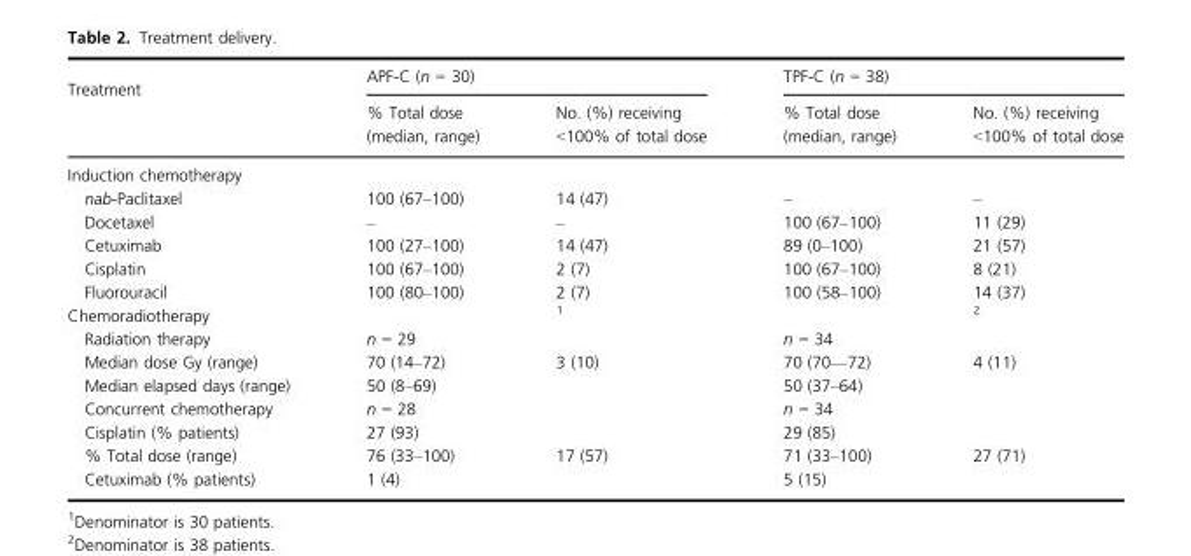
<table><thead><tr><td rowspan="2">Treatment</td><td colspan="2">APF-C (n = 30)</td><td colspan="2">TPF-C (n = 38)</td></tr><tr><td>% Total dose (median, range)</td><td>No. (%) receiving &lt;100% of total dose</td><td>% Total dose (median, range)</td><td>No. (%) receiving &lt;100% of total dose</td></tr></thead><tbody><tr><td colspan="5">Induction chemotherapy</td></tr><tr><td>nab-Paclitaxel</td><td>100 (67–100)</td><td>14 (47)</td><td>–</td><td>–</td></tr><tr><td>Docetaxel</td><td>–</td><td>–</td><td>100 (67–100)</td><td>11 (29)</td></tr><tr><td>Cetuximab</td><td>100 (27–100)</td><td>14 (47)</td><td>89 (0–100)</td><td>21 (57)</td></tr><tr><td>Cisplatin</td><td>100 (67–100)</td><td>2 (7)</td><td>100 (67–100)</td><td>8 (21)</td></tr><tr><td>Fluorouracil</td><td>100 (80–100)</td><td>2 (7)</td><td>100 (58–100)</td><td>14 (37)</td></tr><tr><td>Chemoradiotherapy</td><td></td><td>1</td><td></td><td>2</td></tr><tr><td>Radiation therapy</td><td>n = 29</td><td></td><td>n = 34</td><td></td></tr><tr><td>Median dose Gy (range)</td><td>70 (14–72)</td><td>3 (10)</td><td>70 (70––72)</td><td>4 (11)</td></tr><tr><td>Median elapsed days (range)</td><td>50 (8–69)</td><td></td><td>50 (37–64)</td><td></td></tr><tr><td>Concurrent chemotherapy</td><td>n = 28</td><td></td><td>n = 34</td><td></td></tr><tr><td>Cisplatin (% patients)</td><td>27 (93)</td><td></td><td>29 (85)</td><td></td></tr><tr><td>% Total dose (range)</td><td>76 (33–100)</td><td>17 (57)</td><td>71 (33–100)</td><td>27 (71)</td></tr><tr><td>Cetuximab (% patients)</td><td>1 (4)</td><td></td><td>5 (15)</td><td></td></tr></tbody></table>